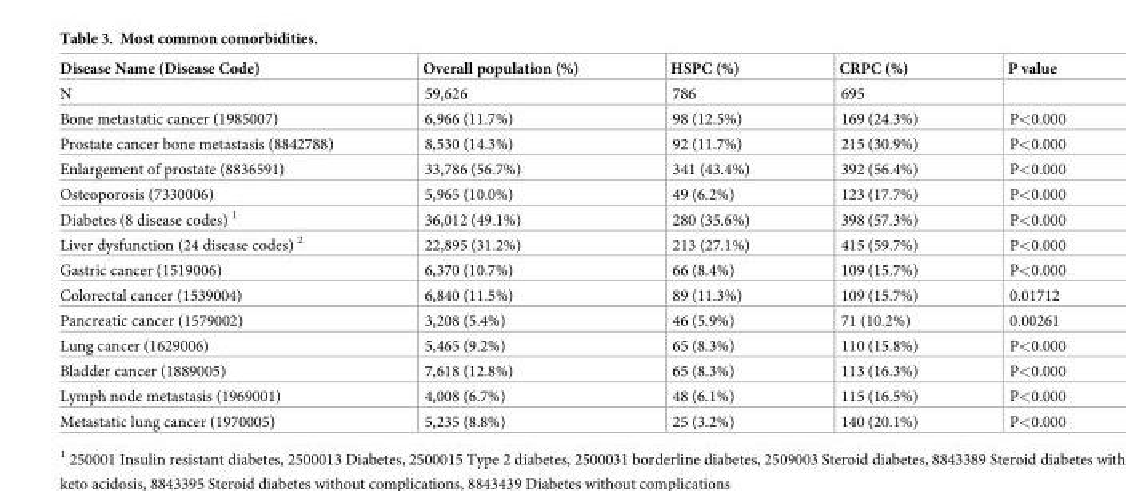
<table><thead><tr><td>Disease Name (Disease Code)</td><td>Overall population (%)</td><td>HSPC (%)</td><td>CRPC (%)</td><td>P value</td></tr></thead><tbody><tr><td>N</td><td>59,626</td><td>786</td><td>695</td><td></td></tr><tr><td>Bone metastatic cancer (1985007)</td><td>6,966 (11.7%)</td><td>98 (12.5%)</td><td>169 (24.3%)</td><td>P&lt;0.000</td></tr><tr><td>Prostate cancer bone metastasis (8842788)</td><td>8,530 (14.3%)</td><td>92 (11.7%)</td><td>215 (30.9%)</td><td>P&lt;0.000</td></tr><tr><td>Enlargement of prostate (8836591)</td><td>33,786 (56.7%)</td><td>341 (43.4%)</td><td>392 (56.4%)</td><td>P&lt;0.000</td></tr><tr><td>Osteoporosis (7330006)</td><td>5,965 (10.0%)</td><td>49 (6.2%)</td><td>123 (17.7%)</td><td>P&lt;0.000</td></tr><tr><td>Diabetes (8 disease codes) <sup>1</sup></td><td>36,012 (49.1%)</td><td>280 (35.6%)</td><td>398 (57.3%)</td><td>P&lt;0.000</td></tr><tr><td>Liver dysfunction (24 disease codes) <sup>2</sup></td><td>22,895 (31.2%)</td><td>213 (27.1%)</td><td>415 (59.7%)</td><td>P&lt;0.000</td></tr><tr><td>Gastric cancer (1519006)</td><td>6,370 (10.7%)</td><td>66 (8.4%)</td><td>109 (15.7%)</td><td>P&lt;0.000</td></tr><tr><td>Colorectal cancer (1539004)</td><td>6,840 (11.5%)</td><td>89 (11.3%)</td><td>109 (15.7%)</td><td>0.01712</td></tr><tr><td>Pancreatic cancer (1579002)</td><td>3,208 (5.4%)</td><td>46 (5.9%)</td><td>71 (10.2%)</td><td>0.00261</td></tr><tr><td>Lung cancer (1629006)</td><td>5,465 (9.2%)</td><td>65 (8.3%)</td><td>110 (15.8%)</td><td>P&lt;0.000</td></tr><tr><td>Bladder cancer (1889005)</td><td>7,618 (12.8%)</td><td>65 (8.3%)</td><td>113 (16.3%)</td><td>P&lt;0.000</td></tr><tr><td>Lymph node metastasis (1969001)</td><td>4,008 (6.7%)</td><td>48 (6.1%)</td><td>115 (16.5%)</td><td>P&lt;0.000</td></tr><tr><td>Metastatic lung cancer (1970005)</td><td>5,235 (8.8%)</td><td>25 (3.2%)</td><td>140 (20.1%)</td><td>P&lt;0.000</td></tr></tbody></table>